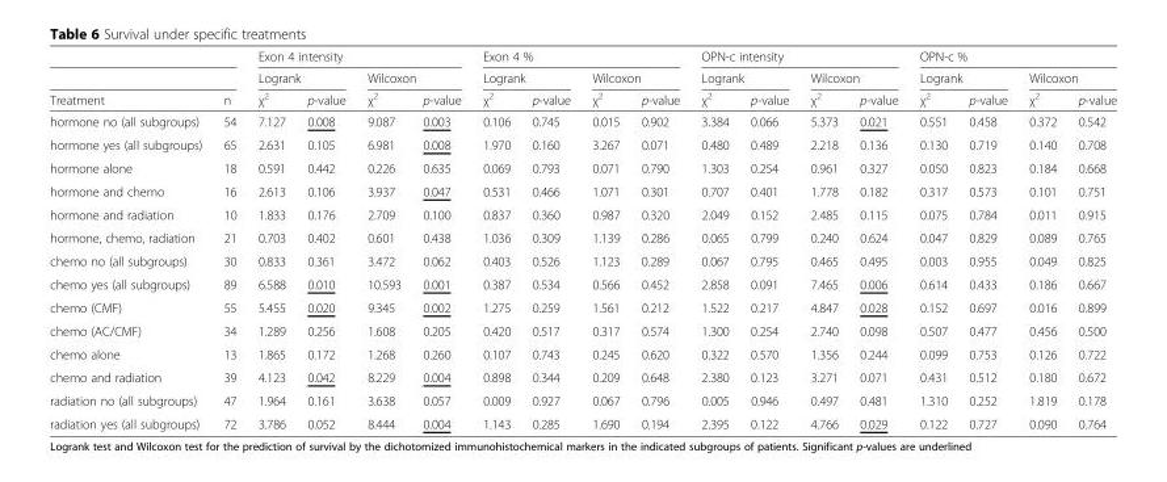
<table><thead><tr><td rowspan="3">Treatment</td><td rowspan="3">n</td><td colspan="4">Exon 4 intensity</td><td colspan="4">Exon 4 %</td><td colspan="4">OPN-c intensity</td><td colspan="4">OPN-c %</td></tr><tr><td colspan="2">Logrank</td><td colspan="2">Wilcoxon</td><td colspan="2">Logrank</td><td colspan="2">Wilcoxon</td><td colspan="2">Logrank</td><td colspan="2">Wilcoxon</td><td colspan="2">Logrank</td><td colspan="2">Wilcoxon</td></tr><tr><td>χ<sup>2</sup></td><td>p-value</td><td>χ<sup>2</sup></td><td>p-value</td><td>χ<sup>2</sup></td><td>p-value</td><td>χ<sup>2</sup></td><td>p-value</td><td>χ<sup>2</sup></td><td>p-value</td><td>χ<sup>2</sup></td><td>p-value</td><td>χ<sup>2</sup></td><td>p-value</td><td>χ<sup>2</sup></td><td>p-value</td></tr></thead><tbody><tr><td>hormone no (all subgroups)</td><td>54</td><td>7.127</td><td>0.008</td><td>9.087</td><td>0.003</td><td>0.106</td><td>0.745</td><td>0.015</td><td>0.902</td><td>3.384</td><td>0.066</td><td>5.373</td><td>0.021</td><td>0.551</td><td>0.458</td><td>0.372</td><td>0.542</td></tr><tr><td>hormone yes (all subgroups)</td><td>65</td><td>2.631</td><td>0.105</td><td>6.981</td><td>0.008</td><td>1.970</td><td>0.160</td><td>3.267</td><td>0.071</td><td>0.480</td><td>0.489</td><td>2.218</td><td>0.136</td><td>0.130</td><td>0.719</td><td>0.140</td><td>0.708</td></tr><tr><td>hormone alone</td><td>18</td><td>0.591</td><td>0.442</td><td>0.226</td><td>0.635</td><td>0.069</td><td>0.793</td><td>0.071</td><td>0.790</td><td>1.303</td><td>0.254</td><td>0.961</td><td>0.327</td><td>0.050</td><td>0.823</td><td>0.184</td><td>0.668</td></tr><tr><td>hormone and chemo</td><td>16</td><td>2.613</td><td>0.106</td><td>3.937</td><td>0.047</td><td>0.531</td><td>0.466</td><td>1.071</td><td>0.301</td><td>0.707</td><td>0.401</td><td>1.778</td><td>0.182</td><td>0.317</td><td>0.573</td><td>0.101</td><td>0.751</td></tr><tr><td>hormone and radiation</td><td>10</td><td>1.833</td><td>0.176</td><td>2.709</td><td>0.100</td><td>0.837</td><td>0.360</td><td>0.987</td><td>0.320</td><td>2.049</td><td>0.152</td><td>2.485</td><td>0.115</td><td>0.075</td><td>0.784</td><td>0.011</td><td>0.915</td></tr><tr><td>hormone, chemo, radiation</td><td>21</td><td>0.703</td><td>0.402</td><td>0.601</td><td>0.438</td><td>1.036</td><td>0.309</td><td>1.139</td><td>0.286</td><td>0.065</td><td>0.799</td><td>0.240</td><td>0.624</td><td>0.047</td><td>0.829</td><td>0.089</td><td>0.765</td></tr><tr><td>chemo no (all subgroups)</td><td>30</td><td>0.833</td><td>0.361</td><td>3.472</td><td>0.062</td><td>0.403</td><td>0.526</td><td>1.123</td><td>0.289</td><td>0.067</td><td>0.795</td><td>0.465</td><td>0.495</td><td>0.003</td><td>0.955</td><td>0.049</td><td>0.825</td></tr><tr><td>chemo yes (all subgroups)</td><td>89</td><td>6.588</td><td>0.010</td><td>10.593</td><td>0.001</td><td>0.387</td><td>0.534</td><td>0.566</td><td>0.452</td><td>2.858</td><td>0.091</td><td>7.465</td><td>0.006</td><td>0.614</td><td>0.433</td><td>0.186</td><td>0.667</td></tr><tr><td>chemo (CMF)</td><td>55</td><td>5.455</td><td>0.020</td><td>9.345</td><td>0.002</td><td>1.275</td><td>0.259</td><td>1.561</td><td>0.212</td><td>1.522</td><td>0.217</td><td>4.847</td><td>0.028</td><td>0.152</td><td>0.697</td><td>0.016</td><td>0.899</td></tr><tr><td>chemo (AC/CMF)</td><td>34</td><td>1.289</td><td>0.256</td><td>1.608</td><td>0.205</td><td>0.420</td><td>0.517</td><td>0.317</td><td>0.574</td><td>1.300</td><td>0.254</td><td>2.740</td><td>0.098</td><td>0.507</td><td>0.477</td><td>0.456</td><td>0.500</td></tr><tr><td>chemo alone</td><td>13</td><td>1.865</td><td>0.172</td><td>1.268</td><td>0.260</td><td>0.107</td><td>0.743</td><td>0.245</td><td>0.620</td><td>0.322</td><td>0.570</td><td>1.356</td><td>0.244</td><td>0.099</td><td>0.753</td><td>0.126</td><td>0.722</td></tr><tr><td>chemo and radiation</td><td>39</td><td>4.123</td><td>0.042</td><td>8.229</td><td>0.004</td><td>0.898</td><td>0.344</td><td>0.209</td><td>0.648</td><td>2.380</td><td>0.123</td><td>3.271</td><td>0.071</td><td>0.431</td><td>0.512</td><td>0.180</td><td>0.672</td></tr><tr><td>radiation no (all subgroups)</td><td>47</td><td>1.964</td><td>0.161</td><td>3.638</td><td>0.057</td><td>0.009</td><td>0.927</td><td>0.067</td><td>0.796</td><td>0.005</td><td>0.946</td><td>0.497</td><td>0.481</td><td>1.310</td><td>0.252</td><td>1.819</td><td>0.178</td></tr><tr><td>radiation yes (all subgroups)</td><td>72</td><td>3.786</td><td>0.052</td><td>8.444</td><td>0.004</td><td>1.143</td><td>0.285</td><td>1.690</td><td>0.194</td><td>2.395</td><td>0.122</td><td>4.766</td><td>0.029</td><td>0.122</td><td>0.727</td><td>0.090</td><td>0.764</td></tr></tbody></table>